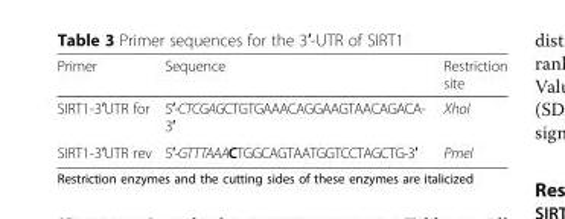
<table><thead><tr><td>Primer</td><td>Sequence</td><td>Restriction site</td></tr></thead><tbody><tr><td>SIRT1-3′UTR for</td><td>5′-CTCGAGCTGTGAAACAGGAAGTAACAGACA- 3′</td><td>XhoI</td></tr><tr><td>SIRT1-3′UTR rev</td><td>5′-GTTTAAACTGGCAGTAATGGTCCTAGCTG-3′</td><td>PmeI</td></tr></tbody></table>